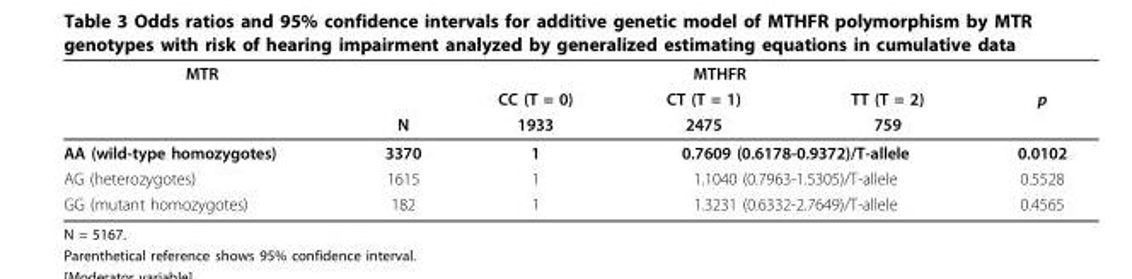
<table><thead><tr><td rowspan="3">MTR</td><td rowspan="3">N</td><td colspan="3">MTHFR</td><td rowspan="3">p</td></tr><tr><td rowspan="2">CC (T = 0) 1933</td><td rowspan="2">CT (T = 1) 2475</td><td rowspan="2">TT (T = 2) 759</td></tr><tr></tr></thead><tbody><tr><td>AA (wild-type homozygotes)</td><td>3370</td><td>1</td><td colspan="2">0.7609 (0.6178-0.9372)/T-allele</td><td>0.0102</td></tr><tr><td>AG (heterozygotes)</td><td>1615</td><td>1</td><td colspan="2">1.1040 (0.7963-1.5305)/T-allele</td><td>0.5528</td></tr><tr><td>GG (mutant homozygotes)</td><td>182</td><td>1</td><td colspan="2">1.3231 (0.6332-2.7649)/T-allele</td><td>0.4565</td></tr></tbody></table>